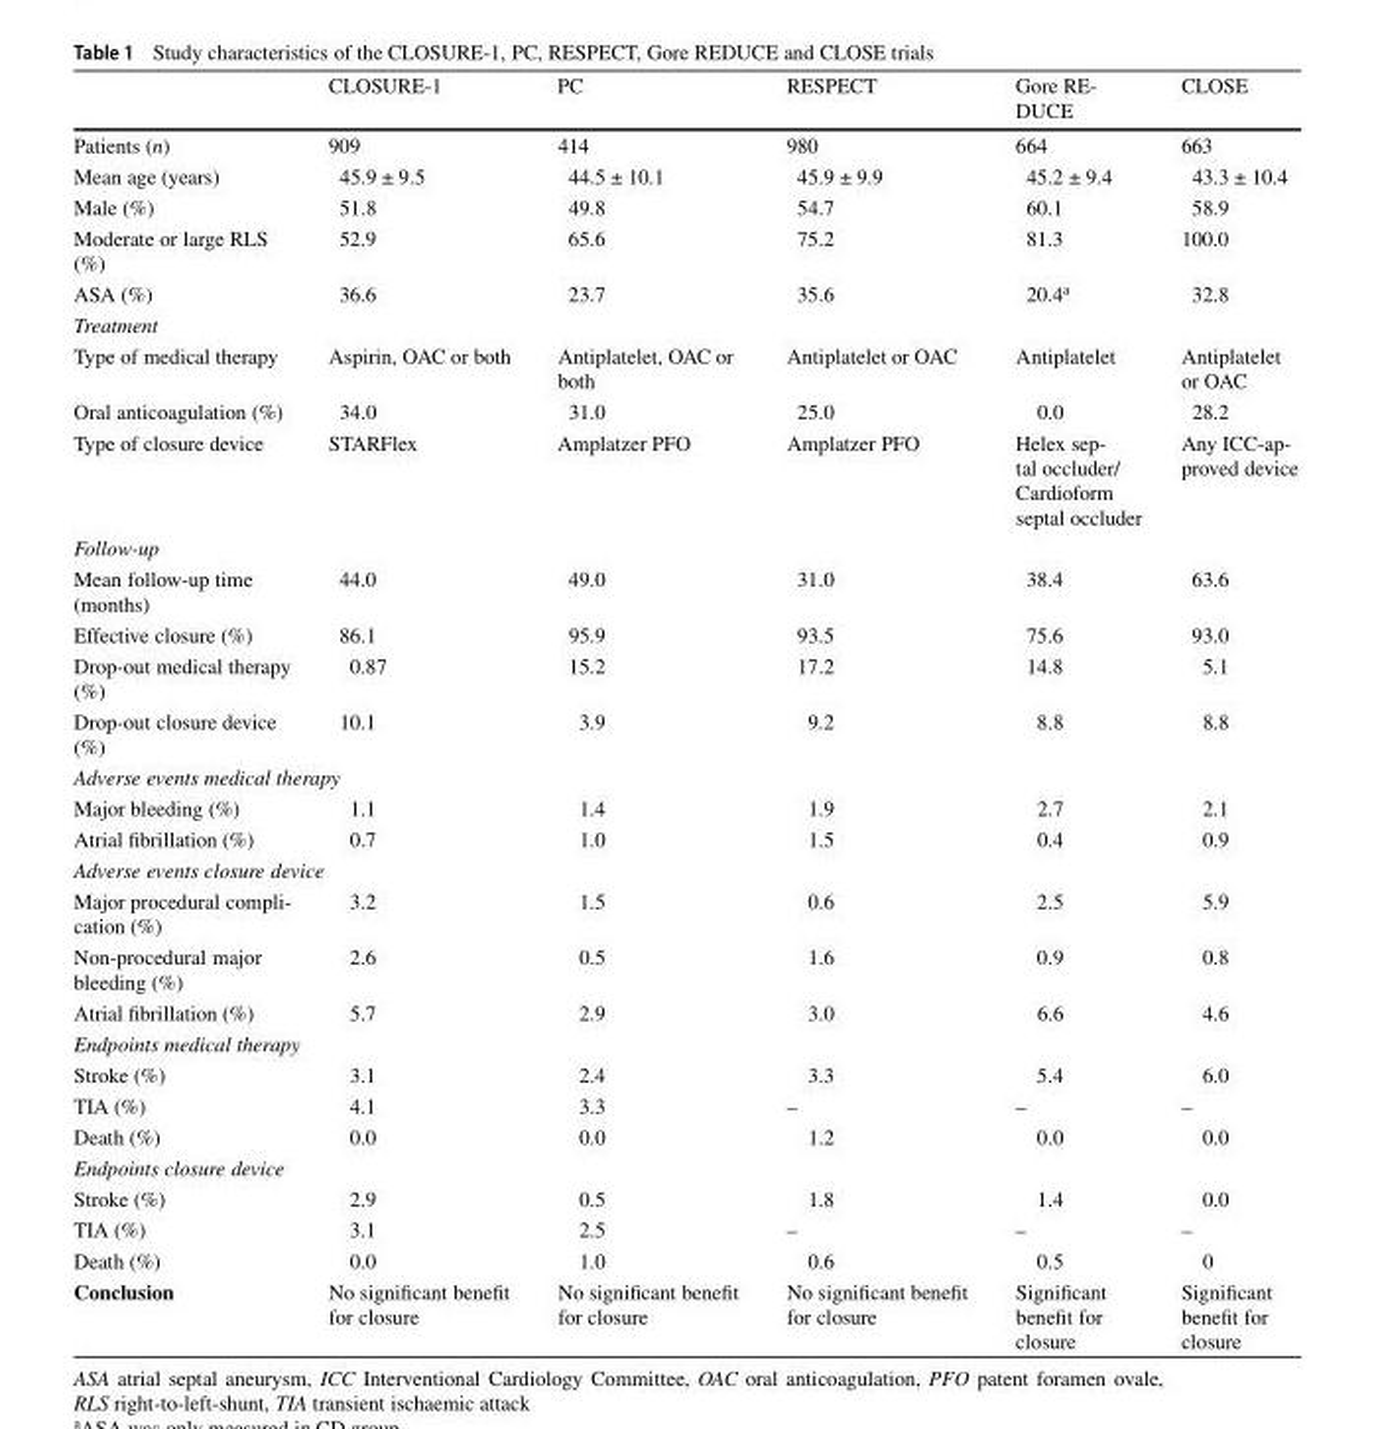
<table><thead><tr><td></td><td>CLOSURE-1</td><td>PC</td><td>RESPECT</td><td>Gore RE- DUCE</td><td>CLOSE</td></tr></thead><tbody><tr><td>Patients (n)</td><td>909</td><td>414</td><td>980</td><td>664</td><td>663</td></tr><tr><td>Mean age (years)</td><td>45.9 ± 9.5</td><td>44.5 ± 10.1</td><td>45.9 ± 9.9</td><td>45.2 ± 9.4</td><td>43.3 ± 10.4</td></tr><tr><td>Male (%)</td><td>51.8</td><td>49.8</td><td>54.7</td><td>60.1</td><td>58.9</td></tr><tr><td>Moderate or large RLS (%)</td><td>52.9</td><td>65.6</td><td>75.2</td><td>81.3</td><td>100.0</td></tr><tr><td>ASA (%)</td><td>36.6</td><td>23.7</td><td>35.6</td><td>20.4<sup>a</sup></td><td>32.8</td></tr><tr><td colspan="6">Treatment</td></tr><tr><td>Type of medical therapy</td><td>Aspirin, OAC or both</td><td>Antiplatelet, OAC or both</td><td>Antiplatelet or OAC</td><td>Antiplatelet</td><td>Antiplatelet or OAC</td></tr><tr><td>Oral anticoagulation (%)</td><td>34.0</td><td>31.0</td><td>25.0</td><td>0.0</td><td>28.2</td></tr><tr><td>Type of closure device</td><td>STARFlex</td><td>Amplatzer PFO</td><td>Amplatzer PFO</td><td>Helex sep- tal occluder/ Cardioform septal occluder</td><td>Any ICC-ap- proved device</td></tr><tr><td colspan="6">Follow-up</td></tr><tr><td>Mean follow-up time (months)</td><td>44.0</td><td>49.0</td><td>31.0</td><td>38.4</td><td>63.6</td></tr><tr><td>Effective closure (%)</td><td>86.1</td><td>95.9</td><td>93.5</td><td>75.6</td><td>93.0</td></tr><tr><td>Drop-out medical therapy (%)</td><td>0.87</td><td>15.2</td><td>17.2</td><td>14.8</td><td>5.1</td></tr><tr><td>Drop-out closure device (%)</td><td>10.1</td><td>3.9</td><td>9.2</td><td>8.8</td><td>8.8</td></tr><tr><td colspan="6">Adverse events medical therapy</td></tr><tr><td>Major bleeding (%)</td><td>1.1</td><td>1.4</td><td>1.9</td><td>2.7</td><td>2.1</td></tr><tr><td>Atrial fibrillation (%)</td><td>0.7</td><td>1.0</td><td>1.5</td><td>0.4</td><td>0.9</td></tr><tr><td colspan="6">Adverse events closure device</td></tr><tr><td>Major procedural compli- cation (%)</td><td>3.2</td><td>1.5</td><td>0.6</td><td>2.5</td><td>5.9</td></tr><tr><td>Non-procedural major bleeding (%)</td><td>2.6</td><td>0.5</td><td>1.6</td><td>0.9</td><td>0.8</td></tr><tr><td>Atrial fibrillation (%)</td><td>5.7</td><td>2.9</td><td>3.0</td><td>6.6</td><td>4.6</td></tr><tr><td colspan="6">Endpoints medical therapy</td></tr><tr><td>Stroke (%)</td><td>3.1</td><td>2.4</td><td>3.3</td><td>5.4</td><td>6.0</td></tr><tr><td>TIA (%)</td><td>4.1</td><td>3.3</td><td>–</td><td>–</td><td>–</td></tr><tr><td>Death (%)</td><td>0.0</td><td>0.0</td><td>1.2</td><td>0.0</td><td>0.0</td></tr><tr><td colspan="6">Endpoints closure device</td></tr><tr><td>Stroke (%)</td><td>2.9</td><td>0.5</td><td>1.8</td><td>1.4</td><td>0.0</td></tr><tr><td>TIA (%)</td><td>3.1</td><td>2.5</td><td>–</td><td>–</td><td>–</td></tr><tr><td>Death (%)</td><td>0.0</td><td>1.0</td><td>0.6</td><td>0.5</td><td>0</td></tr><tr><td>Conclusion</td><td>No significant benefit for closure</td><td>No significant benefit for closure</td><td>No significant benefit for closure</td><td>Significant benefit for closure</td><td>Significant benefit for closure</td></tr></tbody></table>